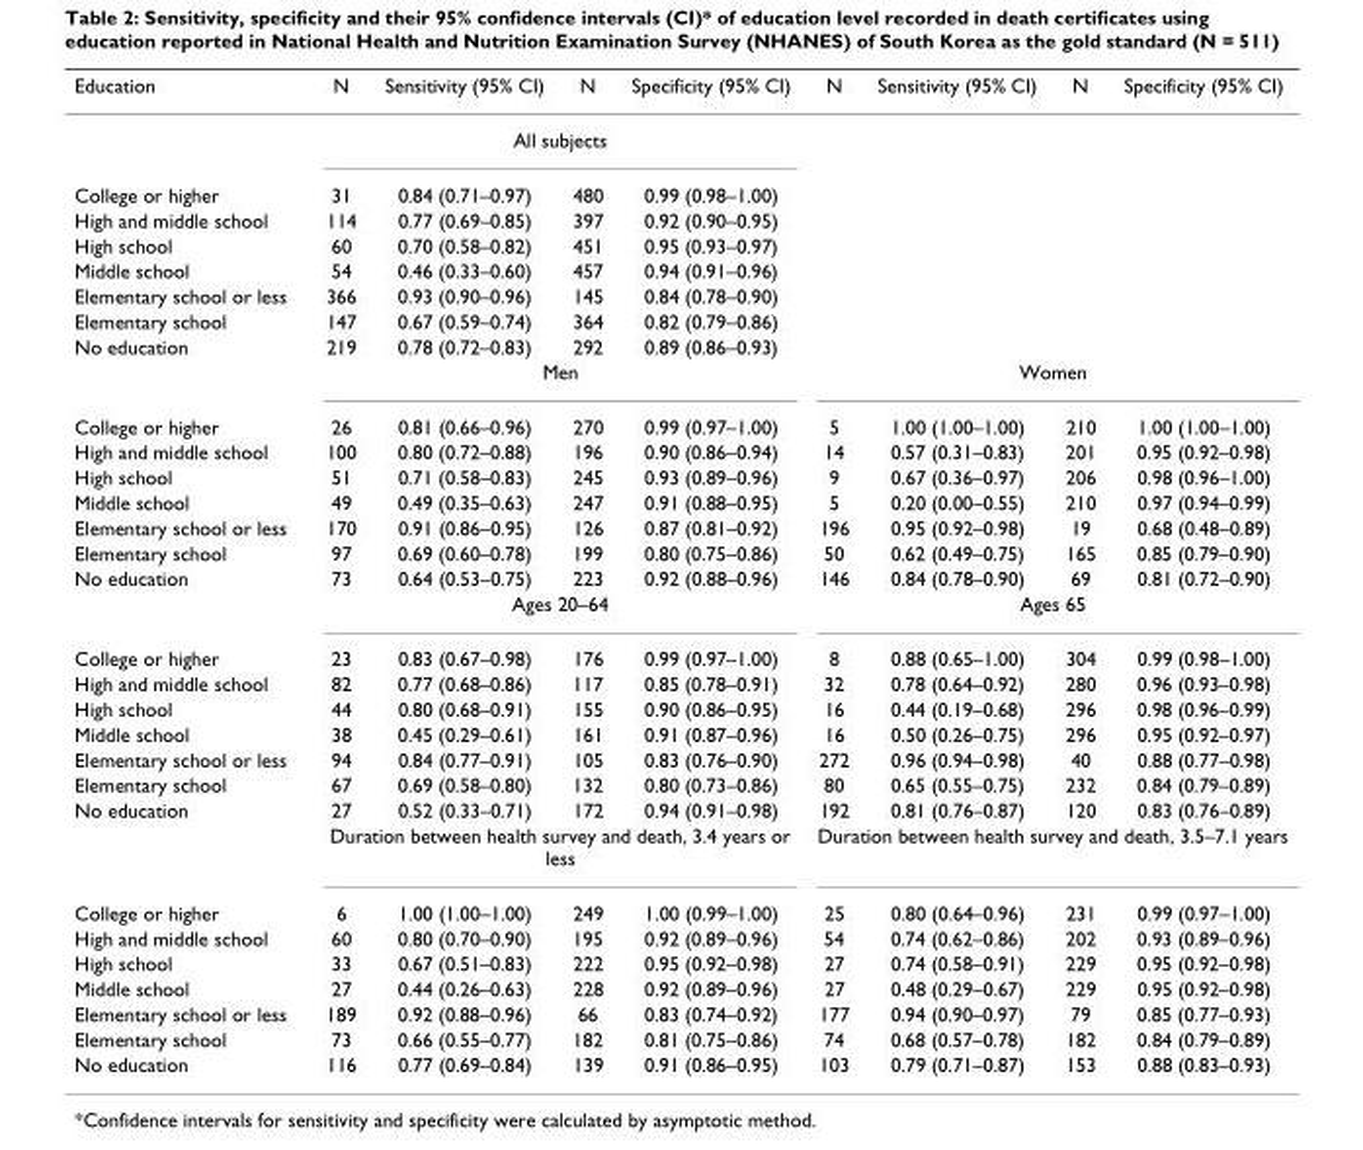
<table><thead><tr><td>Education</td><td>N</td><td>Sensitivity (95% CI)</td><td>N</td><td>Specificity (95% CI)</td><td>N</td><td>Sensitivity (95% CI)</td><td>N</td><td>Specificity (95% CI)</td></tr></thead><tbody><tr><td></td><td colspan="4">All subjects</td><td></td><td></td><td></td><td></td></tr><tr><td>College or higher</td><td>31</td><td>0.84 (0.71–0.97)</td><td>480</td><td>0.99 (0.98–1.00)</td><td></td><td></td><td></td><td></td></tr><tr><td>High and middle school</td><td>114</td><td>0.77 (0.69–0.85)</td><td>397</td><td>0.92 (0.90–0.95)</td><td></td><td></td><td></td><td></td></tr><tr><td>High school</td><td>60</td><td>0.70 (0.58–0.82)</td><td>451</td><td>0.95 (0.93–0.97)</td><td></td><td></td><td></td><td></td></tr><tr><td>Middle school</td><td>54</td><td>0.46 (0.33–0.60)</td><td>457</td><td>0.94 (0.91–0.96)</td><td></td><td></td><td></td><td></td></tr><tr><td>Elementary school or less</td><td>366</td><td>0.93 (0.90–0.96)</td><td>145</td><td>0.84 (0.78–0.90)</td><td></td><td></td><td></td><td></td></tr><tr><td>Elementary school</td><td>147</td><td>0.67 (0.59–0.74)</td><td>364</td><td>0.82 (0.79–0.86)</td><td></td><td></td><td></td><td></td></tr><tr><td rowspan="2">No education</td><td>219</td><td>0.78 (0.72–0.83)</td><td>292</td><td>0.89 (0.86–0.93)</td><td></td><td></td><td></td><td></td></tr><tr><td colspan="4">Men</td><td colspan="4">Women</td></tr><tr><td>College or higher</td><td>26</td><td>0.81 (0.66–0.96)</td><td>270</td><td>0.99 (0.97–1.00)</td><td>5</td><td>1.00 (1.00–1.00)</td><td>210</td><td>1.00 (1.00–1.00)</td></tr><tr><td>High and middle school</td><td>100</td><td>0.80 (0.72–0.88)</td><td>196</td><td>0.90 (0.86–0.94)</td><td>14</td><td>0.57 (0.31–0.83)</td><td>201</td><td>0.95 (0.92–0.98)</td></tr><tr><td>High school</td><td>51</td><td>0.71 (0.58–0.83)</td><td>245</td><td>0.93 (0.89–0.96)</td><td>9</td><td>0.67 (0.36–0.97)</td><td>206</td><td>0.98 (0.96–1.00)</td></tr><tr><td>Middle school</td><td>49</td><td>0.49 (0.35–0.63)</td><td>247</td><td>0.91 (0.88–0.95)</td><td>5</td><td>0.20 (0.00–0.55)</td><td>210</td><td>0.97 (0.94–0.99)</td></tr><tr><td>Elementary school or less</td><td>170</td><td>0.91 (0.86–0.95)</td><td>126</td><td>0.87 (0.81–0.92)</td><td>196</td><td>0.95 (0.92–0.98)</td><td>19</td><td>0.68 (0.48–0.89)</td></tr><tr><td>Elementary school</td><td>97</td><td>0.69 (0.60–0.78)</td><td>199</td><td>0.80 (0.75–0.86)</td><td>50</td><td>0.62 (0.49–0.75)</td><td>165</td><td>0.85 (0.79–0.90)</td></tr><tr><td rowspan="2">No education</td><td>73</td><td>0.64 (0.53–0.75)</td><td>223</td><td>0.92 (0.88–0.96)</td><td>146</td><td>0.84 (0.78–0.90)</td><td>69</td><td>0.81 (0.72–0.90)</td></tr><tr><td colspan="4">Ages 20–64</td><td colspan="4">Ages 65</td></tr><tr><td>College or higher</td><td>23</td><td>0.83 (0.67–0.98)</td><td>176</td><td>0.99 (0.97–1.00)</td><td>8</td><td>0.88 (0.65–1.00)</td><td>304</td><td>0.99 (0.98–1.00)</td></tr><tr><td>High and middle school</td><td>82</td><td>0.77 (0.68–0.86)</td><td>117</td><td>0.85 (0.78–0.91)</td><td>32</td><td>0.78 (0.64–0.92)</td><td>280</td><td>0.96 (0.93–0.98)</td></tr><tr><td>High school</td><td>44</td><td>0.80 (0.68–0.91)</td><td>155</td><td>0.90 (0.86–0.95)</td><td>16</td><td>0.44 (0.19–0.68)</td><td>296</td><td>0.98 (0.96–0.99)</td></tr><tr><td>Middle school</td><td>38</td><td>0.45 (0.29–0.61)</td><td>161</td><td>0.91 (0.87–0.96)</td><td>16</td><td>0.50 (0.26–0.75)</td><td>296</td><td>0.95 (0.92–0.97)</td></tr><tr><td>Elementary school or less</td><td>94</td><td>0.84 (0.77–0.91)</td><td>105</td><td>0.83 (0.76–0.90)</td><td>272</td><td>0.96 (0.94–0.98)</td><td>40</td><td>0.88 (0.77–0.98)</td></tr><tr><td>Elementary school</td><td>67</td><td>0.69 (0.58–0.80)</td><td>132</td><td>0.80 (0.73–0.86)</td><td>80</td><td>0.65 (0.55–0.75)</td><td>232</td><td>0.84 (0.79–0.89)</td></tr><tr><td rowspan="2">No education</td><td>27</td><td>0.52 (0.33–0.71)</td><td>172</td><td>0.94 (0.91–0.98)</td><td>192</td><td>0.81 (0.76–0.87)</td><td>120</td><td>0.83 (0.76–0.89)</td></tr><tr><td colspan="4">Duration between health survey and death, 3.4 years or less</td><td colspan="4">Duration between health survey and death, 3.5–7.1 years</td></tr><tr><td>College or higher</td><td>6</td><td>1.00 (1.00–1.00)</td><td>249</td><td>1.00 (0.99–1.00)</td><td>25</td><td>0.80 (0.64–0.96)</td><td>231</td><td>0.99 (0.97–1.00)</td></tr><tr><td>High and middle school</td><td>60</td><td>0.80 (0.70–0.90)</td><td>195</td><td>0.92 (0.89–0.96)</td><td>54</td><td>0.74 (0.62–0.86)</td><td>202</td><td>0.93 (0.89–0.96)</td></tr><tr><td>High school</td><td>33</td><td>0.67 (0.51–0.83)</td><td>222</td><td>0.95 (0.92–0.98)</td><td>27</td><td>0.74 (0.58–0.91)</td><td>229</td><td>0.95 (0.92–0.98)</td></tr><tr><td>Middle school</td><td>27</td><td>0.44 (0.26–0.63)</td><td>228</td><td>0.92 (0.89–0.96)</td><td>27</td><td>0.48 (0.29–0.67)</td><td>229</td><td>0.95 (0.92–0.98)</td></tr><tr><td>Elementary school or less</td><td>189</td><td>0.92 (0.88–0.96)</td><td>66</td><td>0.83 (0.74–0.92)</td><td>177</td><td>0.94 (0.90–0.97)</td><td>79</td><td>0.85 (0.77–0.93)</td></tr><tr><td>Elementary school</td><td>73</td><td>0.66 (0.55–0.77)</td><td>182</td><td>0.81 (0.75–0.86)</td><td>74</td><td>0.68 (0.57–0.78)</td><td>182</td><td>0.84 (0.79–0.89)</td></tr><tr><td>No education</td><td>116</td><td>0.77 (0.69–0.84)</td><td>139</td><td>0.91 (0.86–0.95)</td><td>103</td><td>0.79 (0.71–0.87)</td><td>153</td><td>0.88 (0.83–0.93)</td></tr></tbody></table>